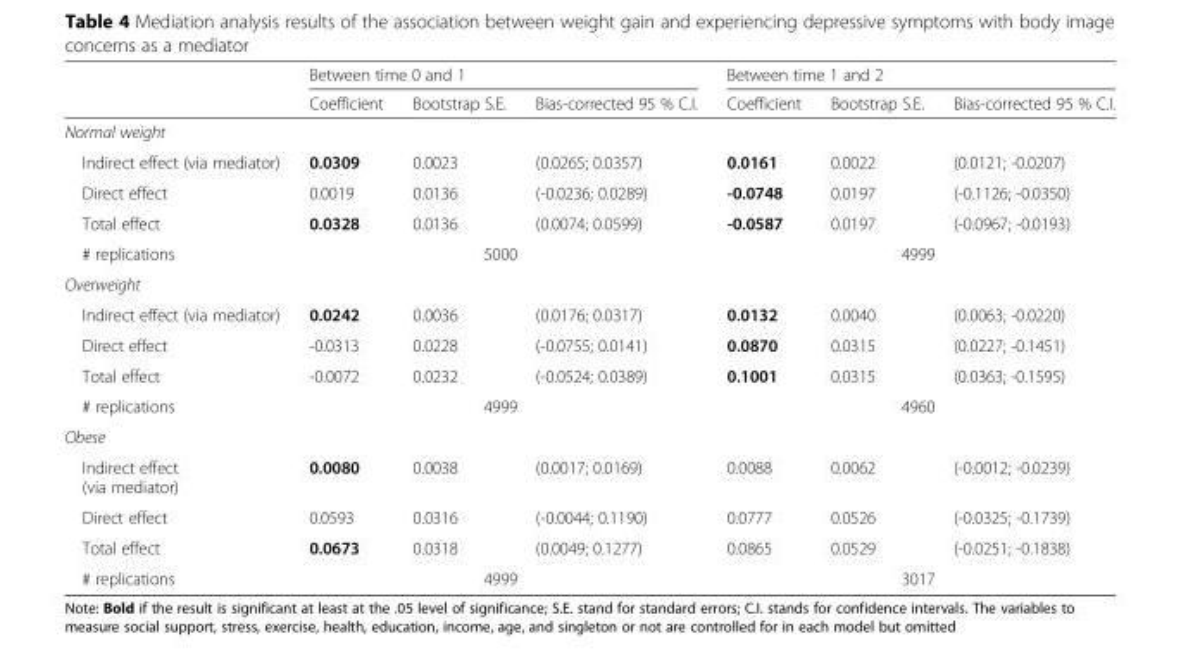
<table><thead><tr><td rowspan="2"></td><td colspan="3">Between time 0 and 1</td><td colspan="3">Between time 1 and 2</td></tr><tr><td>Coefficient</td><td>Bootstrap S.E.</td><td>Bias-corrected 95 % C.I.</td><td>Coefficient</td><td>Bootstrap S.E.</td><td>Bias-corrected 95 % C.I.</td></tr></thead><tbody><tr><td colspan="7">Normal weight</td></tr><tr><td>Indirect effect (via mediator)</td><td>0.0309</td><td>0.0023</td><td>(0.0265; 0.0357)</td><td>0.0161</td><td>0.0022</td><td>(0.0121; -0.0207)</td></tr><tr><td>Direct effect</td><td>0.0019</td><td>0.0136</td><td>(-0.0236; 0.0289)</td><td>-0.0748</td><td>0.0197</td><td>(-0.1126; -0.0350)</td></tr><tr><td>Total effect</td><td>0.0328</td><td>0.0136</td><td>(0.0074; 0.0599)</td><td>-0.0587</td><td>0.0197</td><td>(-0.0967; -0.0193)</td></tr><tr><td># replications</td><td colspan="3">5000</td><td colspan="3">4999</td></tr><tr><td colspan="7">Overweight</td></tr><tr><td>Indirect effect (via mediator)</td><td>0.0242</td><td>0.0036</td><td>(0.0176; 0.0317)</td><td>0.0132</td><td>0.0040</td><td>(0.0063; -0.0220)</td></tr><tr><td>Direct effect</td><td>-0.0313</td><td>0.0228</td><td>(-0.0755; 0.0141)</td><td>0.0870</td><td>0.0315</td><td>(0.0227; -0.1451)</td></tr><tr><td>Total effect</td><td>-0.0072</td><td>0.0232</td><td>(-0.0524; 0.0389)</td><td>0.1001</td><td>0.0315</td><td>(0.0363; -0.1595)</td></tr><tr><td># replications</td><td colspan="3">4999</td><td colspan="3">4960</td></tr><tr><td colspan="7">Obese</td></tr><tr><td>Indirect effect (via mediator)</td><td>0.0080</td><td>0.0038</td><td>(0.0017; 0.0169)</td><td>0.0088</td><td>0.0062</td><td>(-0.0012; -0.0239)</td></tr><tr><td>Direct effect</td><td>0.0593</td><td>0.0316</td><td>(-0.0044; 0.1190)</td><td>0.0777</td><td>0.0526</td><td>(-0.0325; -0.1739)</td></tr><tr><td>Total effect</td><td>0.0673</td><td>0.0318</td><td>(0.0049; 0.1277)</td><td>0.0865</td><td>0.0529</td><td>(-0.0251; -0.1838)</td></tr><tr><td># replications</td><td colspan="3">4999</td><td colspan="3">3017</td></tr></tbody></table>